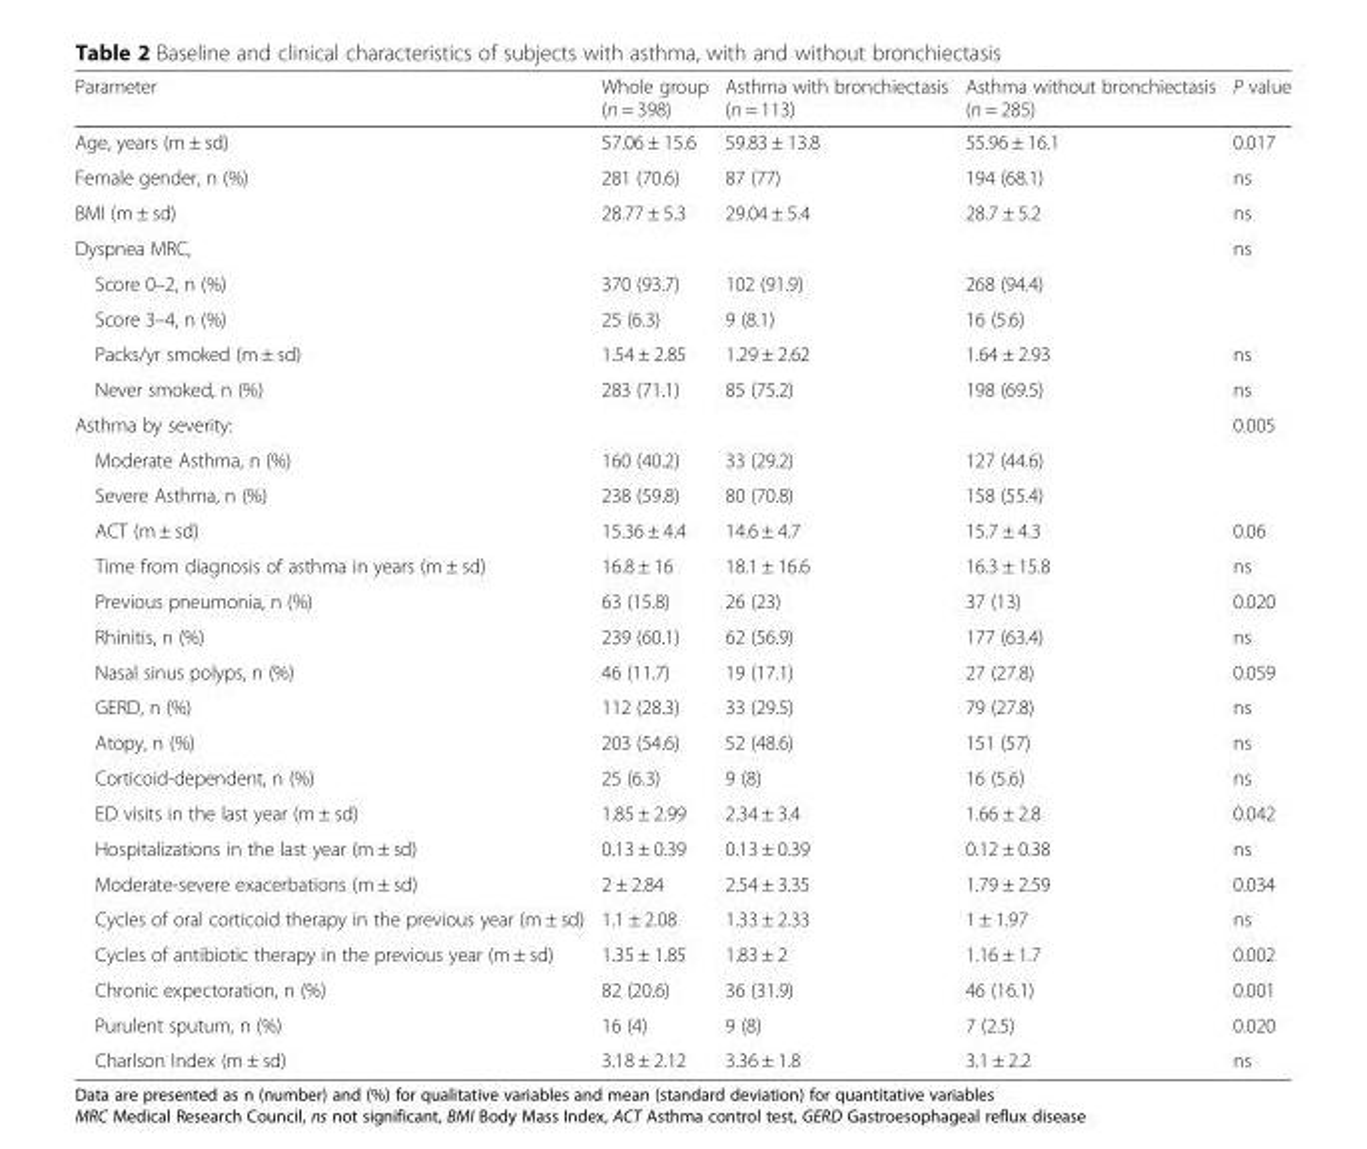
<table><thead><tr><td>Parameter</td><td>Whole group (n = 398)</td><td>Asthma with bronchiectasis (n = 113)</td><td>Asthma without bronchiectasis (n = 285)</td><td>P value</td></tr></thead><tbody><tr><td>Age, years (m ± sd)</td><td>57.06 ± 15.6</td><td>59.83 ± 13.8</td><td>55.96 ± 16.1</td><td>0.017</td></tr><tr><td>Female gender, n (%)</td><td>281 (70.6)</td><td>87 (77)</td><td>194 (68.1)</td><td>ns</td></tr><tr><td>BMI (m ± sd)</td><td>28.77 ± 5.3</td><td>29.04 ± 5.4</td><td>28.7 ± 5.2</td><td>ns</td></tr><tr><td colspan="4">Dyspnea MRC,</td><td>ns</td></tr><tr><td>Score 0–2, n (%)</td><td>370 (93.7)</td><td>102 (91.9)</td><td>268 (94.4)</td><td></td></tr><tr><td>Score 3–4, n (%)</td><td>25 (6.3)</td><td>9 (8.1)</td><td>16 (5.6)</td><td></td></tr><tr><td>Packs/yr smoked (m ± sd)</td><td>1.54 ± 2.85</td><td>1.29 ± 2.62</td><td>1.64 ± 2.93</td><td>ns</td></tr><tr><td>Never smoked, n (%)</td><td>283 (71.1)</td><td>85 (75.2)</td><td>198 (69.5)</td><td>ns</td></tr><tr><td colspan="4">Asthma by severity:</td><td>0.005</td></tr><tr><td>Moderate Asthma, n (%)</td><td>160 (40.2)</td><td>33 (29.2)</td><td>127 (44.6)</td><td></td></tr><tr><td>Severe Asthma, n (%)</td><td>238 (59.8)</td><td>80 (70.8)</td><td>158 (55.4)</td><td></td></tr><tr><td>ACT (m ± sd)</td><td>15.36 ± 4.4</td><td>14.6 ± 4.7</td><td>15.7 ± 4.3</td><td>0.06</td></tr><tr><td>Time from diagnosis of asthma in years (m ± sd)</td><td>16.8 ± 16</td><td>18.1 ± 16.6</td><td>16.3 ± 15.8</td><td>ns</td></tr><tr><td>Previous pneumonia, n (%)</td><td>63 (15.8)</td><td>26 (23)</td><td>37 (13)</td><td>0.020</td></tr><tr><td>Rhinitis, n (%)</td><td>239 (60.1)</td><td>62 (56.9)</td><td>177 (63.4)</td><td>ns</td></tr><tr><td>Nasal sinus polyps, n (%)</td><td>46 (11.7)</td><td>19 (17.1)</td><td>27 (27.8)</td><td>0.059</td></tr><tr><td>GERD, n (%)</td><td>112 (28.3)</td><td>33 (29.5)</td><td>79 (27.8)</td><td>ns</td></tr><tr><td>Atopy, n (%)</td><td>203 (54.6)</td><td>52 (48.6)</td><td>151 (57)</td><td>ns</td></tr><tr><td>Corticoid-dependent, n (%)</td><td>25 (6.3)</td><td>9 (8)</td><td>16 (5.6)</td><td>ns</td></tr><tr><td>ED visits in the last year (m ± sd)</td><td>1.85 ± 2.99</td><td>2.34 ± 3.4</td><td>1.66 ± 2.8</td><td>0.042</td></tr><tr><td>Hospitalizations in the last year (m ± sd)</td><td>0.13 ± 0.39</td><td>0.13 ± 0.39</td><td>0.12 ± 0.38</td><td>ns</td></tr><tr><td>Moderate-severe exacerbations (m ± sd)</td><td>2 ± 2.84</td><td>2.54 ± 3.35</td><td>1.79 ± 2.59</td><td>0.034</td></tr><tr><td>Cycles of oral corticoid therapy in the previous year (m ± sd)</td><td>1.1 ± 2.08</td><td>1.33 ± 2.33</td><td>1 ± 1.97</td><td>ns</td></tr><tr><td>Cycles of antibiotic therapy in the previous year (m ± sd)</td><td>1.35 ± 1.85</td><td>1.83 ± 2</td><td>1.16 ± 1.7</td><td>0.002</td></tr><tr><td>Chronic expectoration, n (%)</td><td>82 (20.6)</td><td>36 (31.9)</td><td>46 (16.1)</td><td>0.001</td></tr><tr><td>Purulent sputum, n (%)</td><td>16 (4)</td><td>9 (8)</td><td>7 (2.5)</td><td>0.020</td></tr><tr><td>Charlson Index (m ± sd)</td><td>3.18 ± 2.12</td><td>3.36 ± 1.8</td><td>3.1 ± 2.2</td><td>ns</td></tr></tbody></table>